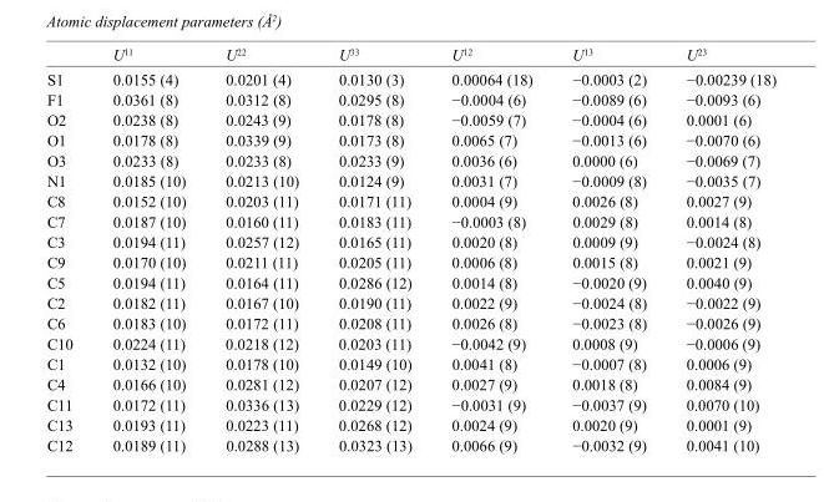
<table><thead><tr><td></td><td>U<sup>11</sup></td><td>U<sup>22</sup></td><td>U<sup>33</sup></td><td>U<sup>12</sup></td><td>U<sup>13</sup></td><td>U<sup>23</sup></td></tr></thead><tbody><tr><td>S1</td><td>0.0155 (4)</td><td>0.0201 (4)</td><td>0.0130 (3)</td><td>0.00064 (18)</td><td>−0.0003 (2)</td><td>−0.00239 (18)</td></tr><tr><td>F1</td><td>0.0361 (8)</td><td>0.0312 (8)</td><td>0.0295 (8)</td><td>−0.0004 (6)</td><td>−0.0089 (6)</td><td>−0.0093 (6)</td></tr><tr><td>O2</td><td>0.0238 (8)</td><td>0.0243 (9)</td><td>0.0178 (8)</td><td>−0.0059 (7)</td><td>−0.0004 (6)</td><td>0.0001 (6)</td></tr><tr><td>O1</td><td>0.0178 (8)</td><td>0.0339 (9)</td><td>0.0173 (8)</td><td>0.0065 (7)</td><td>−0.0013 (6)</td><td>−0.0070 (6)</td></tr><tr><td>O3</td><td>0.0233 (8)</td><td>0.0233 (8)</td><td>0.0233 (9)</td><td>0.0036 (6)</td><td>0.0000 (6)</td><td>−0.0069 (7)</td></tr><tr><td>N1</td><td>0.0185 (10)</td><td>0.0213 (10)</td><td>0.0124 (9)</td><td>0.0031 (7)</td><td>−0.0009 (8)</td><td>−0.0035 (7)</td></tr><tr><td>C8</td><td>0.0152 (10)</td><td>0.0203 (11)</td><td>0.0171 (11)</td><td>0.0004 (9)</td><td>0.0026 (8)</td><td>0.0027 (9)</td></tr><tr><td>C7</td><td>0.0187 (10)</td><td>0.0160 (11)</td><td>0.0183 (11)</td><td>−0.0003 (8)</td><td>0.0029 (8)</td><td>0.0014 (8)</td></tr><tr><td>C3</td><td>0.0194 (11)</td><td>0.0257 (12)</td><td>0.0165 (11)</td><td>0.0020 (8)</td><td>0.0009 (9)</td><td>−0.0024 (8)</td></tr><tr><td>C9</td><td>0.0170 (10)</td><td>0.0211 (11)</td><td>0.0205 (11)</td><td>0.0006 (8)</td><td>0.0015 (8)</td><td>0.0021 (9)</td></tr><tr><td>C5</td><td>0.0194 (11)</td><td>0.0164 (11)</td><td>0.0286 (12)</td><td>0.0014 (8)</td><td>−0.0020 (9)</td><td>0.0040 (9)</td></tr><tr><td>C2</td><td>0.0182 (11)</td><td>0.0167 (10)</td><td>0.0190 (11)</td><td>0.0022 (9)</td><td>−0.0024 (8)</td><td>−0.0022 (9)</td></tr><tr><td>C6</td><td>0.0183 (10)</td><td>0.0172 (11)</td><td>0.0208 (11)</td><td>0.0026 (8)</td><td>−0.0023 (8)</td><td>−0.0026 (9)</td></tr><tr><td>C10</td><td>0.0224 (11)</td><td>0.0218 (12)</td><td>0.0203 (11)</td><td>−0.0042 (9)</td><td>0.0008 (9)</td><td>−0.0006 (9)</td></tr><tr><td>C1</td><td>0.0132 (10)</td><td>0.0178 (10)</td><td>0.0149 (10)</td><td>0.0041 (8)</td><td>−0.0007 (8)</td><td>0.0006 (9)</td></tr><tr><td>C4</td><td>0.0166 (10)</td><td>0.0281 (12)</td><td>0.0207 (12)</td><td>0.0027 (9)</td><td>0.0018 (8)</td><td>0.0084 (9)</td></tr><tr><td>C11</td><td>0.0172 (11)</td><td>0.0336 (13)</td><td>0.0229 (12)</td><td>−0.0031 (9)</td><td>−0.0037 (9)</td><td>0.0070 (10)</td></tr><tr><td>C13</td><td>0.0193 (11)</td><td>0.0223 (11)</td><td>0.0268 (12)</td><td>0.0024 (9)</td><td>0.0020 (9)</td><td>0.0001 (9)</td></tr><tr><td>C12</td><td>0.0189 (11)</td><td>0.0288 (13)</td><td>0.0323 (13)</td><td>0.0066 (9)</td><td>−0.0032 (9)</td><td>0.0041 (10)</td></tr></tbody></table>